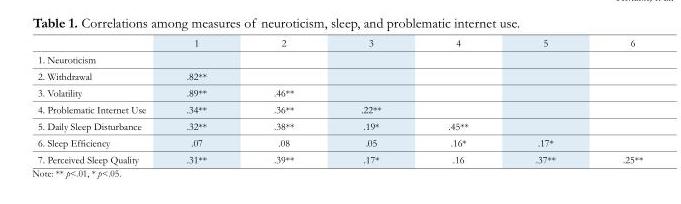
<table><thead><tr><td></td><td>1</td><td>2</td><td>3</td><td>4</td><td>5</td><td>6</td></tr></thead><tbody><tr><td colspan="7">1. Neuroticism</td></tr><tr><td>2. Withdrawal</td><td>.82**</td><td></td><td></td><td></td><td></td><td></td></tr><tr><td>3. Volatility</td><td>.89**</td><td>.46**</td><td></td><td></td><td></td><td></td></tr><tr><td>4. Problematic Internet Use</td><td>.34**</td><td>.36**</td><td>.22**</td><td></td><td></td><td></td></tr><tr><td>5. Daily Sleep Disturbance</td><td>.32**</td><td>.38**</td><td>.19*</td><td>.45**</td><td></td><td></td></tr><tr><td>6. Sleep Efficiency</td><td>.07</td><td>.08</td><td>.05</td><td>.16*</td><td>.17*</td><td></td></tr><tr><td>7. Perceived Sleep Quality</td><td>.31**</td><td>.39**</td><td>.17*</td><td>.16</td><td>.37**</td><td>.25**</td></tr></tbody></table>